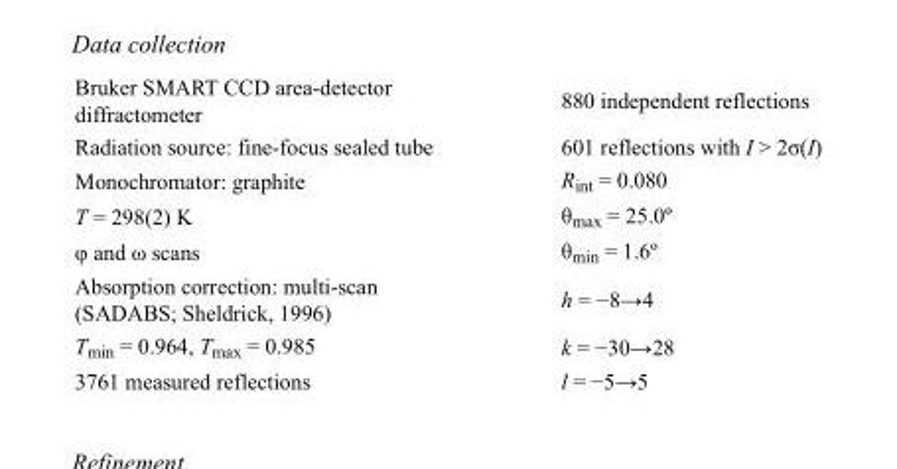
<table><tbody><tr><td>Bruker SMART CCD area-detector diffractometer</td><td>880 independent reflections</td></tr><tr><td>Radiation source: fine-focus sealed tube</td><td>601 reflections with I &gt; 2σ(I)</td></tr><tr><td>Monochromator: graphite</td><td>R<sub>int</sub> = 0.080</td></tr><tr><td>T = 298(2) K</td><td>θ<sub>max</sub> = 25.0º</td></tr><tr><td>φ and ω scans</td><td>θ<sub>min</sub> = 1.6º</td></tr><tr><td>Absorption correction: multi-scan (SADABS; Sheldrick, 1996)</td><td>h = −8→4</td></tr><tr><td>T<sub>min</sub> = 0.964, T<sub>max</sub> = 0.985</td><td>k = −30→28</td></tr><tr><td>3761 measured reflections</td><td>l = −5→5</td></tr></tbody></table>